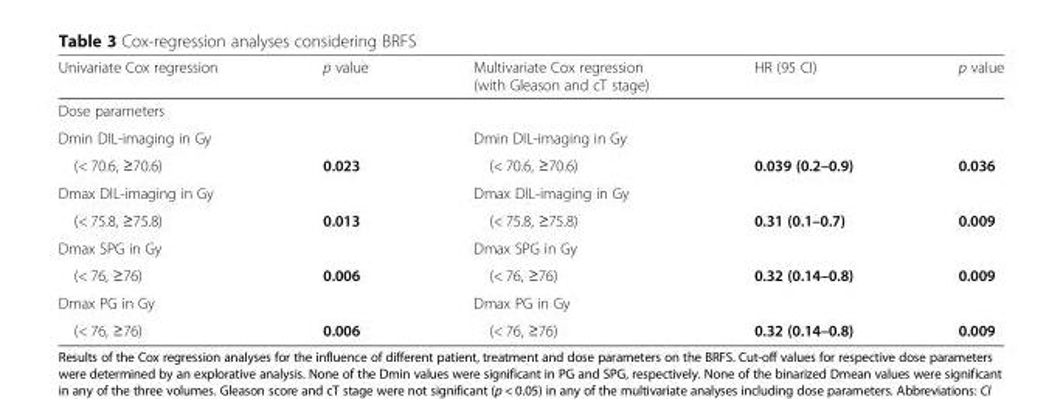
<table><thead><tr><td>Univariate Cox regression</td><td>p value</td><td>Multivariate Cox regression (with Gleason and cT stage)</td><td>HR (95 CI)</td><td>p value</td></tr></thead><tbody><tr><td colspan="5">Dose parameters</td></tr><tr><td>Dmin DIL-imaging in Gy</td><td></td><td>Dmin DIL-imaging in Gy</td><td></td><td></td></tr><tr><td>(&lt; 70.6, ≥70.6)</td><td>0.023</td><td>(&lt; 70.6, ≥70.6)</td><td>0.039 (0.2–0.9)</td><td>0.036</td></tr><tr><td>Dmax DIL-imaging in Gy</td><td></td><td>Dmax DIL-imaging in Gy</td><td></td><td></td></tr><tr><td>(&lt; 75.8, ≥75.8)</td><td>0.013</td><td>(&lt; 75.8, ≥75.8)</td><td>0.31 (0.1–0.7)</td><td>0.009</td></tr><tr><td>Dmax SPG in Gy</td><td></td><td>Dmax SPG in Gy</td><td></td><td></td></tr><tr><td>(&lt; 76, ≥76)</td><td>0.006</td><td>(&lt; 76, ≥76)</td><td>0.32 (0.14–0.8)</td><td>0.009</td></tr><tr><td>Dmax PG in Gy</td><td></td><td>Dmax PG in Gy</td><td></td><td></td></tr><tr><td>(&lt; 76, ≥76)</td><td>0.006</td><td>(&lt; 76, ≥76)</td><td>0.32 (0.14–0.8)</td><td>0.009</td></tr></tbody></table>